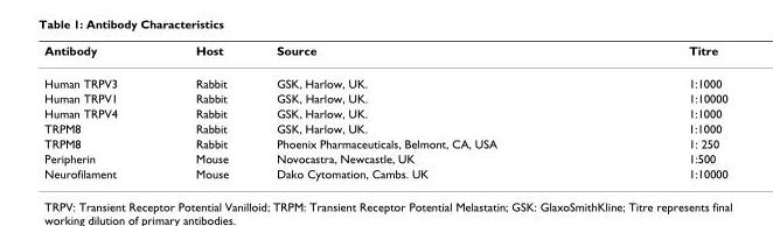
<table><thead><tr><td>Antibody</td><td>Host</td><td>Source</td><td>Titre</td></tr></thead><tbody><tr><td>Human TRPV3</td><td>Rabbit</td><td>GSK, Harlow, UK.</td><td>1:1000</td></tr><tr><td>Human TRPV1</td><td>Rabbit</td><td>GSK, Harlow, UK.</td><td>1:10000</td></tr><tr><td>Human TRPV4</td><td>Rabbit</td><td>GSK, Harlow, UK.</td><td>1:1000</td></tr><tr><td>TRPM8</td><td>Rabbit</td><td>GSK, Harlow, UK.</td><td>1:1000</td></tr><tr><td>TRPM8</td><td>Rabbit</td><td>Phoenix Pharmaceuticals, Belmont, CA, USA</td><td>1: 250</td></tr><tr><td>Peripherin</td><td>Mouse</td><td>Novocastra, Newcastle, UK</td><td>1:500</td></tr><tr><td>Neurofilament</td><td>Mouse</td><td>Dako Cytomation, Cambs. UK</td><td>1:10000</td></tr></tbody></table>